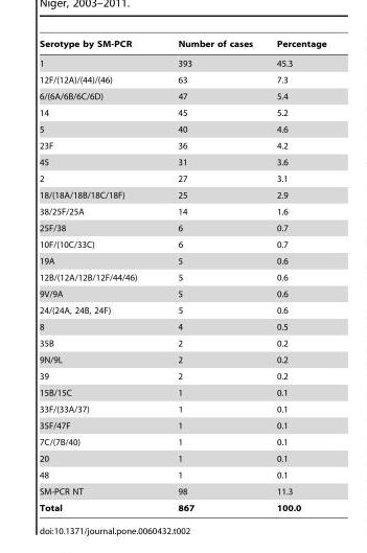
<table><thead><tr><td>Serotype by SM-PCR</td><td>Number of cases</td><td>Percentage</td></tr></thead><tbody><tr><td>1</td><td>393</td><td>45.3</td></tr><tr><td>12F/(12A)/(44)/(46)</td><td>63</td><td>7.3</td></tr><tr><td>6/(6A/6B/6C/6D)</td><td>47</td><td>5.4</td></tr><tr><td>14</td><td>45</td><td>5.2</td></tr><tr><td>5</td><td>40</td><td>4.6</td></tr><tr><td>23F</td><td>36</td><td>4.2</td></tr><tr><td>45</td><td>31</td><td>3.6</td></tr><tr><td>2</td><td>27</td><td>3.1</td></tr><tr><td>18/(18A/18B/18C/18F)</td><td>25</td><td>2.9</td></tr><tr><td>38/25F/25A</td><td>14</td><td>1.6</td></tr><tr><td>25F/38</td><td>6</td><td>0.7</td></tr><tr><td>10F/(10C/33C)</td><td>6</td><td>0.7</td></tr><tr><td>19A</td><td>5</td><td>0.6</td></tr><tr><td>12B/(12A/12B/12F/44/46)</td><td>5</td><td>0.6</td></tr><tr><td>9V/9A</td><td>5</td><td>0.6</td></tr><tr><td>24/(24A, 24B, 24F)</td><td>5</td><td>0.6</td></tr><tr><td>8</td><td>4</td><td>0.5</td></tr><tr><td>35B</td><td>2</td><td>0.2</td></tr><tr><td>9N/9L</td><td>2</td><td>0.2</td></tr><tr><td>39</td><td>2</td><td>0.2</td></tr><tr><td>15B/15C</td><td>1</td><td>0.1</td></tr><tr><td>33F/(33A/37)</td><td>1</td><td>0.1</td></tr><tr><td>35F/47F</td><td>1</td><td>0.1</td></tr><tr><td>7C/(7B/40)</td><td>1</td><td>0.1</td></tr><tr><td>20</td><td>1</td><td>0.1</td></tr><tr><td>48</td><td>1</td><td>0.1</td></tr><tr><td>SM-PCR NT</td><td>98</td><td>11.3</td></tr><tr><td>Total</td><td>867</td><td>100.0</td></tr></tbody></table>